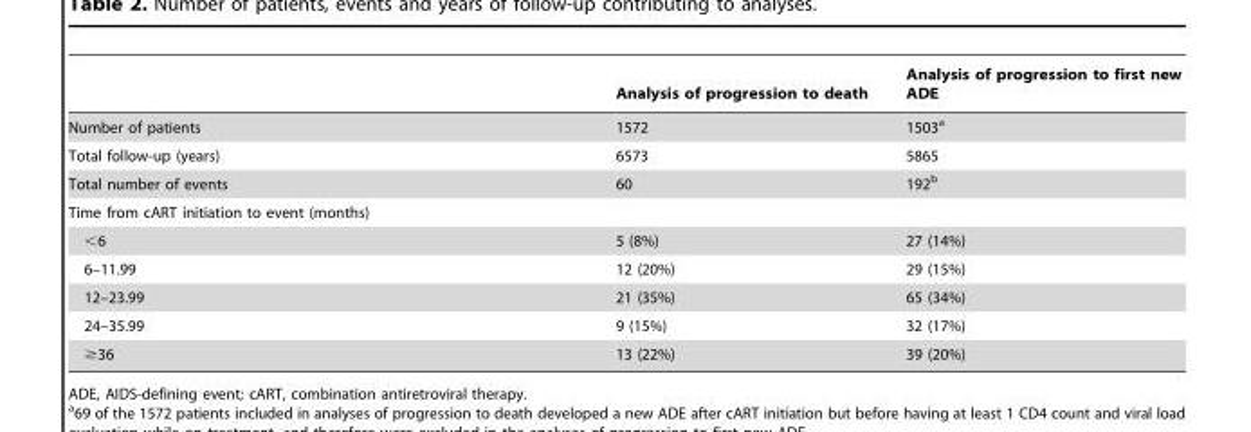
<table><thead><tr><td></td><td>Analysis of progression to death</td><td>Analysis of progression to first new ADE</td></tr></thead><tbody><tr><td>Number of patients</td><td>1572</td><td>1503<sup>a</sup></td></tr><tr><td>Total follow-up (years)</td><td>6573</td><td>5865</td></tr><tr><td>Total number of events</td><td>60</td><td>192<sup>b</sup></td></tr><tr><td colspan="3">Time from cART initiation to event (months)</td></tr><tr><td>&lt;6</td><td>5 (8%)</td><td>27 (14%)</td></tr><tr><td>6–11.99</td><td>12 (20%)</td><td>29 (15%)</td></tr><tr><td>12–23.99</td><td>21 (35%)</td><td>65 (34%)</td></tr><tr><td>24–35.99</td><td>9 (15%)</td><td>32 (17%)</td></tr><tr><td>≥36</td><td>13 (22%)</td><td>39 (20%)</td></tr></tbody></table>